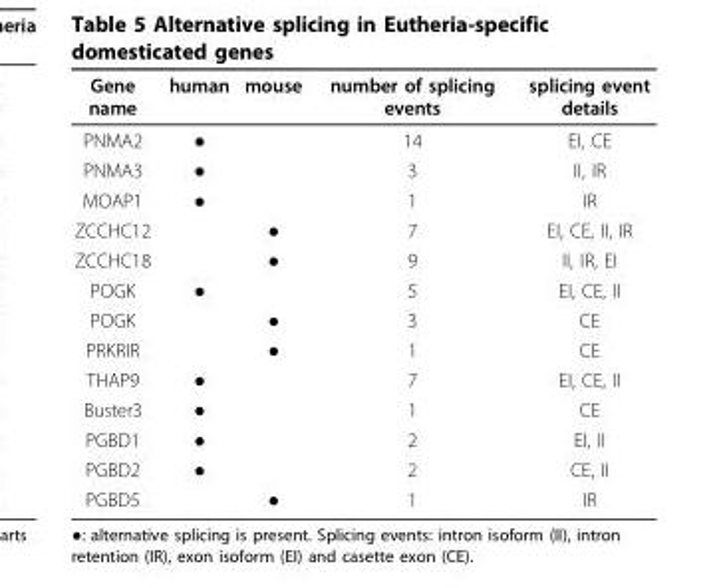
<table><thead><tr><td>Gene name</td><td>human</td><td>mouse</td><td>number of splicing events</td><td>splicing event details</td></tr></thead><tbody><tr><td>PNMA2</td><td>●</td><td></td><td>14</td><td>EI, CE</td></tr><tr><td>PNMA3</td><td>●</td><td></td><td>3</td><td>II, IR</td></tr><tr><td>MOAP1</td><td>●</td><td></td><td>1</td><td>IR</td></tr><tr><td>ZCCHC12</td><td></td><td>●</td><td>7</td><td>EI, CE, II, IR</td></tr><tr><td>ZCCHC18</td><td></td><td>●</td><td>9</td><td>II, IR, EI</td></tr><tr><td>POGK</td><td>●</td><td></td><td>5</td><td>EI, CE, II</td></tr><tr><td>POGK</td><td></td><td>●</td><td>3</td><td>CE</td></tr><tr><td>PRKRIR</td><td></td><td>●</td><td>1</td><td>CE</td></tr><tr><td>THAP9</td><td>●</td><td></td><td>7</td><td>EI, CE, II</td></tr><tr><td>Buster3</td><td>●</td><td></td><td>1</td><td>CE</td></tr><tr><td>PGBD1</td><td>●</td><td></td><td>2</td><td>EI, II</td></tr><tr><td>PGBD2</td><td>●</td><td></td><td>2</td><td>CE, II</td></tr><tr><td>PGBD5</td><td></td><td>●</td><td>1</td><td>IR</td></tr></tbody></table>